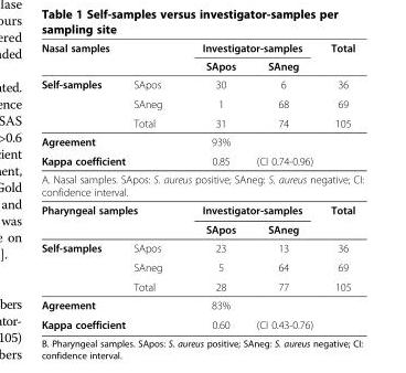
<table><thead><tr><td colspan="2">Nasal samples</td><td colspan="2">Investigator-samples</td><td rowspan="2">Total</td></tr><tr><td></td><td></td><td>SApos</td><td>SAneg</td></tr></thead><tbody><tr><td rowspan="3">Self-samples</td><td>SApos</td><td>30</td><td>6</td><td>36</td></tr><tr><td>SAneg</td><td>1</td><td>68</td><td>69</td></tr><tr><td>Total</td><td>31</td><td>74</td><td>105</td></tr><tr><td colspan="2">Agreement</td><td>93%</td><td colspan="2"></td></tr><tr><td colspan="2">Kappa coefficient</td><td>0.85</td><td>(CI 0.74-0.96)</td><td></td></tr><tr><td colspan="5">A. Nasal samples. SApos: S. aureus positive; SAneg: S. aureus negative; CI: confidence interval.</td></tr><tr><td colspan="2">Pharyngeal samples</td><td colspan="2">Investigator-samples</td><td>Total</td></tr><tr><td></td><td></td><td>SApos</td><td>SAneg</td><td></td></tr><tr><td rowspan="3">Self-samples</td><td>SApos</td><td>23</td><td>13</td><td>36</td></tr><tr><td>SAneg</td><td>5</td><td>64</td><td>69</td></tr><tr><td>Total</td><td>28</td><td>77</td><td>105</td></tr><tr><td colspan="2">Agreement</td><td>83%</td><td colspan="2"></td></tr><tr><td colspan="2">Kappa coefficient</td><td>0.60</td><td>(CI 0.43-0.76)</td><td></td></tr></tbody></table>